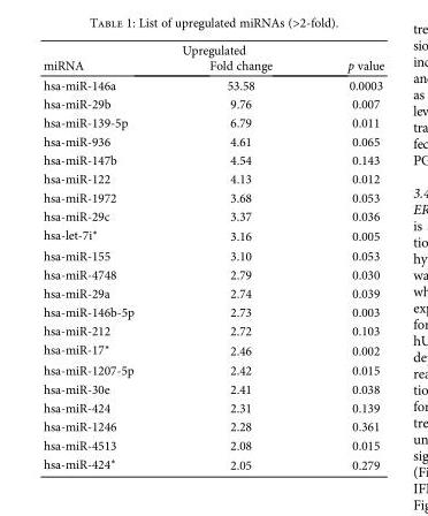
<table><thead><tr><td colspan="3">Upregulated</td></tr><tr><td>miRNA</td><td>Fold change</td><td>p value</td></tr></thead><tbody><tr><td>hsa-miR-146a</td><td>53.58</td><td>0.0003</td></tr><tr><td>hsa-miR-29b</td><td>9.76</td><td>0.007</td></tr><tr><td>hsa-miR-139-5p</td><td>6.79</td><td>0.011</td></tr><tr><td>hsa-miR-936</td><td>4.61</td><td>0.065</td></tr><tr><td>hsa-miR-147b</td><td>4.54</td><td>0.143</td></tr><tr><td>hsa-miR-122</td><td>4.13</td><td>0.012</td></tr><tr><td>hsa-miR-1972</td><td>3.68</td><td>0.053</td></tr><tr><td>hsa-miR-29c</td><td>3.37</td><td>0.036</td></tr><tr><td>hsa-let-7i∗</td><td>3.16</td><td>0.005</td></tr><tr><td>hsa-miR-155</td><td>3.10</td><td>0.053</td></tr><tr><td>hsa-miR-4748</td><td>2.79</td><td>0.030</td></tr><tr><td>hsa-miR-29a</td><td>2.74</td><td>0.039</td></tr><tr><td>hsa-miR-146b-5p</td><td>2.73</td><td>0.003</td></tr><tr><td>hsa-miR-212</td><td>2.72</td><td>0.103</td></tr><tr><td>hsa-miR-17∗</td><td>2.46</td><td>0.002</td></tr><tr><td>hsa-miR-1207-5p</td><td>2.42</td><td>0.015</td></tr><tr><td>hsa-miR-30e</td><td>2.41</td><td>0.038</td></tr><tr><td>hsa-miR-424</td><td>2.31</td><td>0.139</td></tr><tr><td>hsa-miR-1246</td><td>2.28</td><td>0.361</td></tr><tr><td>hsa-miR-4513</td><td>2.08</td><td>0.015</td></tr><tr><td>hsa-miR-424∗</td><td>2.05</td><td>0.279</td></tr></tbody></table>